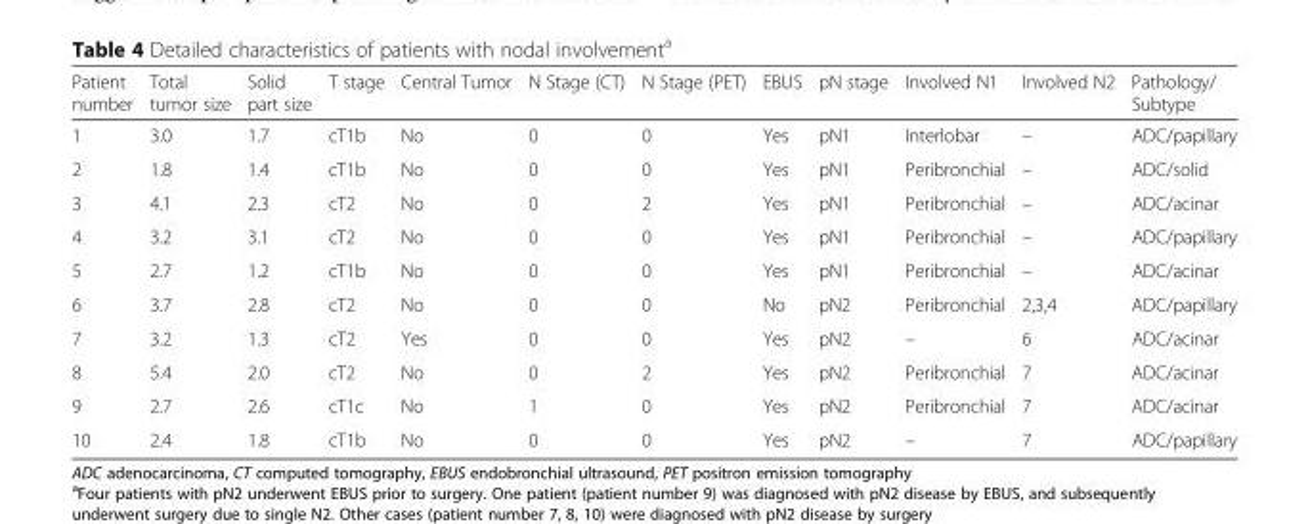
<table><thead><tr><td>Patient number</td><td>Total tumor size</td><td>Solid part size</td><td>T stage</td><td>Central Tumor</td><td>N Stage (CT)</td><td>N Stage (PET)</td><td>EBUS</td><td>pN stage</td><td>Involved N1</td><td>Involved N2</td><td>Pathology/ Subtype</td></tr></thead><tbody><tr><td>1</td><td>3.0</td><td>1.7</td><td>cT1b</td><td>No</td><td>0</td><td>0</td><td>Yes</td><td>pN1</td><td>Interlobar</td><td>–</td><td>ADC/papillary</td></tr><tr><td>2</td><td>1.8</td><td>1.4</td><td>cT1b</td><td>No</td><td>0</td><td>0</td><td>Yes</td><td>pN1</td><td>Peribronchial</td><td>–</td><td>ADC/solid</td></tr><tr><td>3</td><td>4.1</td><td>2.3</td><td>cT2</td><td>No</td><td>0</td><td>2</td><td>Yes</td><td>pN1</td><td>Peribronchial</td><td>–</td><td>ADC/acinar</td></tr><tr><td>4</td><td>3.2</td><td>3.1</td><td>cT2</td><td>No</td><td>0</td><td>0</td><td>Yes</td><td>pN1</td><td>Peribronchial</td><td>–</td><td>ADC/papillary</td></tr><tr><td>5</td><td>2.7</td><td>1.2</td><td>cT1b</td><td>No</td><td>0</td><td>0</td><td>Yes</td><td>pN1</td><td>Peribronchial</td><td>–</td><td>ADC/acinar</td></tr><tr><td>6</td><td>3.7</td><td>2.8</td><td>cT2</td><td>No</td><td>0</td><td>0</td><td>No</td><td>pN2</td><td>Peribronchial</td><td>2,3,4</td><td>ADC/papillary</td></tr><tr><td>7</td><td>3.2</td><td>1.3</td><td>cT2</td><td>Yes</td><td>0</td><td>0</td><td>Yes</td><td>pN2</td><td>–</td><td>6</td><td>ADC/acinar</td></tr><tr><td>8</td><td>5.4</td><td>2.0</td><td>cT2</td><td>No</td><td>0</td><td>2</td><td>Yes</td><td>pN2</td><td>Peribronchial</td><td>7</td><td>ADC/acinar</td></tr><tr><td>9</td><td>2.7</td><td>2.6</td><td>cT1c</td><td>No</td><td>1</td><td>0</td><td>Yes</td><td>pN2</td><td>Peribronchial</td><td>7</td><td>ADC/acinar</td></tr><tr><td>10</td><td>2.4</td><td>1.8</td><td>cT1b</td><td>No</td><td>0</td><td>0</td><td>Yes</td><td>pN2</td><td>–</td><td>7</td><td>ADC/papillary</td></tr></tbody></table>